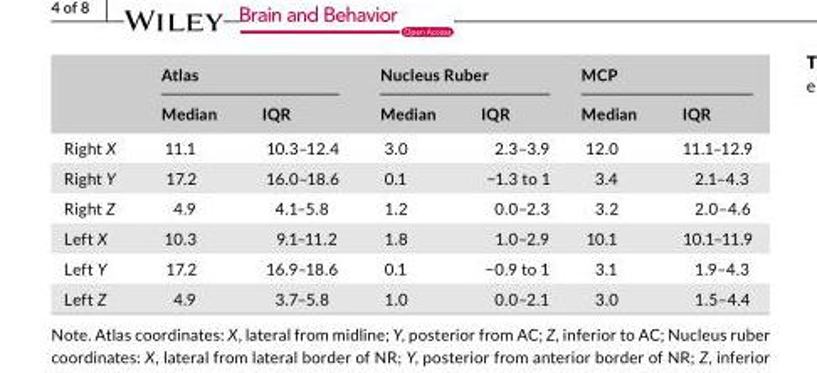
<table><thead><tr><td rowspan="2"></td><td colspan="2">Atlas</td><td colspan="2">Nucleus Ruber</td><td colspan="2">MCP</td></tr><tr><td>Median</td><td>IQR</td><td>Median</td><td>IQR</td><td>Median</td><td>IQR</td></tr></thead><tbody><tr><td>Right X</td><td>11.1</td><td>10.3–12.4</td><td>3.0</td><td>2.3–3.9</td><td>12.0</td><td>11.1–12.9</td></tr><tr><td>Right Y</td><td>17.2</td><td>16.0–18.6</td><td>0.1</td><td>−1.3 to 1</td><td>3.4</td><td>2.1–4.3</td></tr><tr><td>Right Z</td><td>4.9</td><td>4.1–5.8</td><td>1.2</td><td>0.0–2.3</td><td>3.2</td><td>2.0–4.6</td></tr><tr><td>Left X</td><td>10.3</td><td>9.1–11.2</td><td>1.8</td><td>1.0–2.9</td><td>10.1</td><td>10.1–11.9</td></tr><tr><td>Left Y</td><td>17.2</td><td>16.9–18.6</td><td>0.1</td><td>−0.9 to 1</td><td>3.1</td><td>1.9–4.3</td></tr><tr><td>Left Z</td><td>4.9</td><td>3.7–5.8</td><td>1.0</td><td>0.0–2.1</td><td>3.0</td><td>1.5–4.4</td></tr></tbody></table>